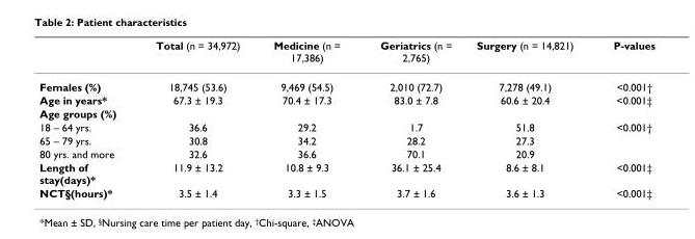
<table><thead><tr><td></td><td>Total (n = 34,972)</td><td>Medicine (n = 17,386)</td><td>Geriatrics (n = 2,765)</td><td>Surgery (n = 14,821)</td><td>P-values</td></tr></thead><tbody><tr><td>Females (%)</td><td>18,745 (53.6)</td><td>9,469 (54.5)</td><td>2,010 (72.7)</td><td>7,278 (49.1)</td><td>&lt;0.001†</td></tr><tr><td>Age in years*</td><td>67.3 ± 19.3</td><td>70.4 ± 17.3</td><td>83.0 ± 7.8</td><td>60.6 ± 20.4</td><td>&lt;0.001‡</td></tr><tr><td colspan="6">Age groups (%)</td></tr><tr><td>18 – 64 yrs.</td><td>36.6</td><td>29.2</td><td>1.7</td><td>51.8</td><td>&lt;0.001†</td></tr><tr><td>65 – 79 yrs.</td><td>30.8</td><td>34.2</td><td>28.2</td><td>27.3</td><td></td></tr><tr><td>80 yrs. and more</td><td>32.6</td><td>36.6</td><td>70.1</td><td>20.9</td><td></td></tr><tr><td>Length of stay(days)*</td><td>11.9 ± 13.2</td><td>10.8 ± 9.3</td><td>36.1 ± 25.4</td><td>8.6 ± 8.1</td><td>&lt;0.001‡</td></tr><tr><td>NCT§(hours)*</td><td>3.5 ± 1.4</td><td>3.3 ± 1.5</td><td>3.7 ± 1.6</td><td>3.6 ± 1.3</td><td>&lt;0.001‡</td></tr></tbody></table>